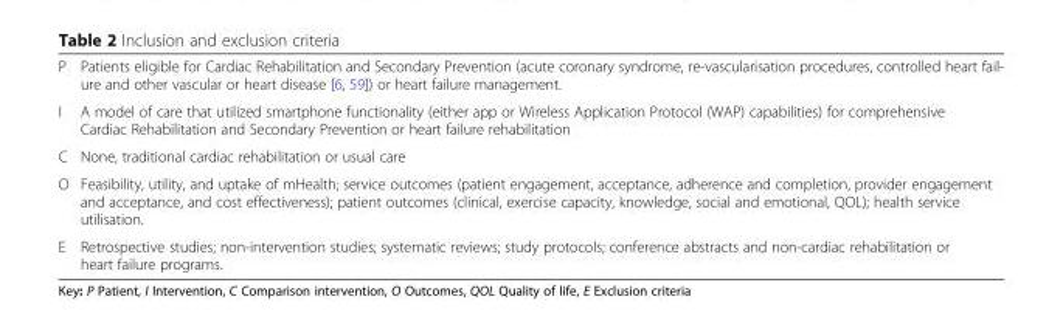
<table><tbody><tr><td>P</td><td>Patients eligible for Cardiac Rehabilitation and Secondary Prevention (acute coronary syndrome, re-vascularisation procedures, controlled heart fail- ure and other vascular or heart disease [6, 59]) or heart failure management.</td></tr><tr><td>I</td><td>A model of care that utilized smartphone functionality (either app or Wireless Application Protocol (WAP) capabilities) for comprehensive Cardiac Rehabilitation and Secondary Prevention or heart failure rehabilitation</td></tr><tr><td>C</td><td>None, traditional cardiac rehabilitation or usual care</td></tr><tr><td>O</td><td>Feasibility, utility, and uptake of mHealth; service outcomes (patient engagement, acceptance, adherence and completion, provider engagement and acceptance, and cost effectiveness); patient outcomes (clinical, exercise capacity, knowledge, social and emotional, QOL); health service utilisation.</td></tr><tr><td>E</td><td>Retrospective studies; non-intervention studies; systematic reviews; study protocols; conference abstracts and non-cardiac rehabilitation or heart failure programs.</td></tr></tbody></table>